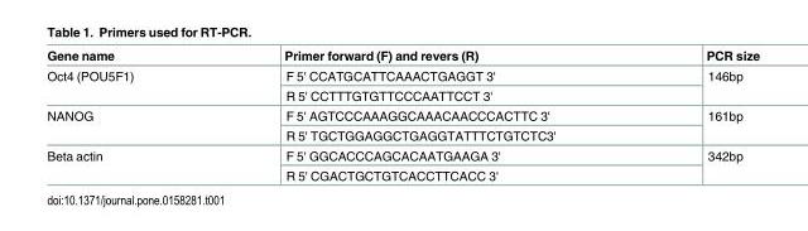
<table><thead><tr><td>Gene name</td><td>Primer forward (F) and revers (R)</td><td>PCR size</td></tr></thead><tbody><tr><td rowspan="2">Oct4 (POU5F1)</td><td>F 5&#x27; CCATGCATTCAAACTGAGGT 3&#x27;</td><td rowspan="2">146bp</td></tr><tr><td>R 5&#x27; CCTTTGTGTTCCCAATTCCT 3&#x27;</td></tr><tr><td rowspan="2">NANOG</td><td>F 5&#x27; AGTCCCAAAGGCAAACAACCCACTTC 3&#x27;</td><td rowspan="2">161bp</td></tr><tr><td>R 5&#x27; TGCTGGAGGCTGAGGTATTTCTGTCTC3&#x27;</td></tr><tr><td rowspan="2">Beta actin</td><td>F 5&#x27; GGCACCCAGCACAATGAAGA 3&#x27;</td><td rowspan="2">342bp</td></tr><tr><td>R 5&#x27; CGACTGCTGTCACCTTCACC 3&#x27;</td></tr></tbody></table>